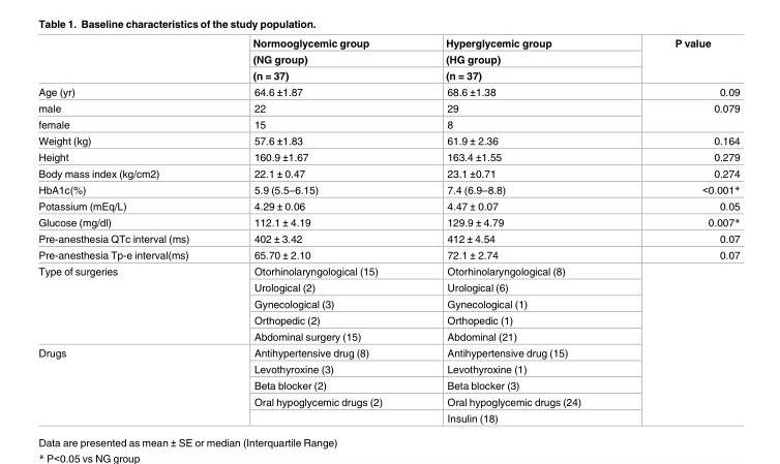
<table><thead><tr><td rowspan="3"></td><td rowspan="3">Normooglycemic group (NG group) (n = 37)</td><td rowspan="3">Hyperglycemic group (HG group) (n = 37)</td><td rowspan="3">P value</td></tr><tr></tr><tr></tr></thead><tbody><tr><td>Age (yr)</td><td>64.6 ±1.87</td><td>68.6 ±1.38</td><td>0.09</td></tr><tr><td>male</td><td>22</td><td>29</td><td rowspan="2">0.079</td></tr><tr><td>female</td><td>15</td><td>8</td></tr><tr><td>Weight (kg)</td><td>57.6 ±1.83</td><td>61.9 ± 2.36</td><td>0.164</td></tr><tr><td>Height</td><td>160.9 ±1.67</td><td>163.4 ±1.55</td><td>0.279</td></tr><tr><td>Body mass index (kg/cm2)</td><td>22.1 ± 0.47</td><td>23.1 ±0.71</td><td>0.274</td></tr><tr><td>HbA1c(%)</td><td>5.9 (5.5–6.15)</td><td>7.4 (6.9–8.8)</td><td>&lt;0.001*</td></tr><tr><td>Potassium (mEq/L)</td><td>4.29 ± 0.06</td><td>4.47 ± 0.07</td><td>0.05</td></tr><tr><td>Glucose (mg/dl)</td><td>112.1 ± 4.19</td><td>129.9 ± 4.79</td><td>0.007*</td></tr><tr><td>Pre-anesthesia QTc interval (ms)</td><td>402 ± 3.42</td><td>412 ± 4.54</td><td>0.07</td></tr><tr><td>Pre-anesthesia Tp-e interval(ms)</td><td>65.70 ± 2.10</td><td>72.1 ± 2.74</td><td>0.07</td></tr><tr><td rowspan="5">Type of surgeries</td><td>Otorhinolaryngological (15)</td><td>Otorhinolaryngological (8)</td><td rowspan="10"></td></tr><tr><td>Urological (2)</td><td>Urological (6)</td></tr><tr><td>Gynecological (3)</td><td>Gynecological (1)</td></tr><tr><td>Orthopedic (2)</td><td>Orthopedic (1)</td></tr><tr><td>Abdominal surgery (15)</td><td>Abdominal (21)</td></tr><tr><td rowspan="5">Drugs</td><td>Antihypertensive drug (8)</td><td>Antihypertensive drug (15)</td></tr><tr><td>Levothyroxine (3)</td><td>Levothyroxine (1)</td></tr><tr><td>Beta blocker (2)</td><td>Beta blocker (3)</td></tr><tr><td>Oral hypoglycemic drugs (2)</td><td>Oral hypoglycemic drugs (24)</td></tr><tr><td></td><td>Insulin (18)</td></tr></tbody></table>